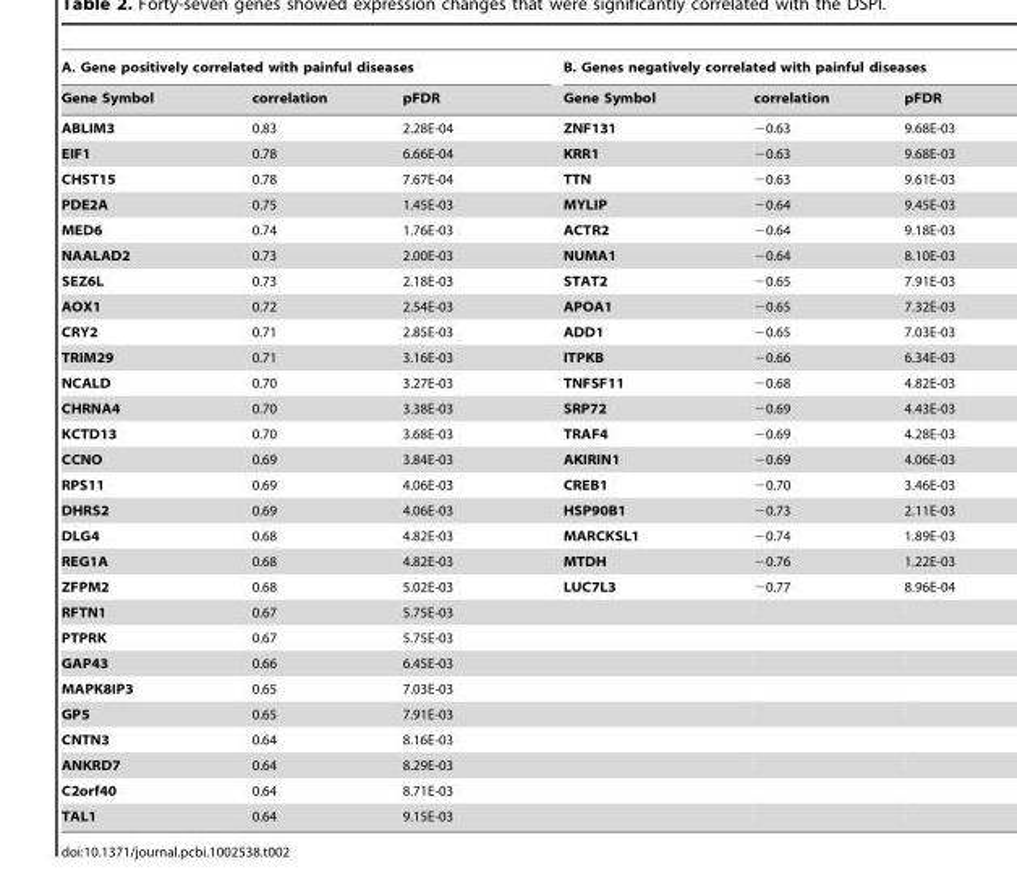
<table><thead><tr><td colspan="3">A. Gene positively correlated with painful diseases</td><td colspan="3">B. Genes negatively correlated with painful diseases</td></tr><tr><td>Gene Symbol</td><td>correlation</td><td>pFDR</td><td>Gene Symbol</td><td>correlation</td><td>pFDR</td></tr></thead><tbody><tr><td>ABLIM3</td><td>0.83</td><td>2.28E-04</td><td>ZNF131</td><td>−0.63</td><td>9.68E-03</td></tr><tr><td>EIF1</td><td>0.78</td><td>6.66E-04</td><td>KRR1</td><td>−0.63</td><td>9.68E-03</td></tr><tr><td>CHST15</td><td>0.78</td><td>7.67E-04</td><td>TTN</td><td>−0.63</td><td>9.61E-03</td></tr><tr><td>PDE2A</td><td>0.75</td><td>1.45E-03</td><td>MYLIP</td><td>−0.64</td><td>9.45E-03</td></tr><tr><td>MED6</td><td>0.74</td><td>1.76E-03</td><td>ACTR2</td><td>−0.64</td><td>9.18E-03</td></tr><tr><td>NAALAD2</td><td>0.73</td><td>2.00E-03</td><td>NUMA1</td><td>−0.64</td><td>8.10E-03</td></tr><tr><td>SEZ6L</td><td>0.73</td><td>2.18E-03</td><td>STAT2</td><td>−0.65</td><td>7.91E-03</td></tr><tr><td>AOX1</td><td>0.72</td><td>2.54E-03</td><td>APOA1</td><td>−0.65</td><td>7.32E-03</td></tr><tr><td>CRY2</td><td>0.71</td><td>2.85E-03</td><td>ADD1</td><td>−0.65</td><td>7.03E-03</td></tr><tr><td>TRIM29</td><td>0.71</td><td>3.16E-03</td><td>ITPKB</td><td>−0.66</td><td>6.34E-03</td></tr><tr><td>NCALD</td><td>0.70</td><td>3.27E-03</td><td>TNFSF11</td><td>−0.68</td><td>4.82E-03</td></tr><tr><td>CHRNA4</td><td>0.70</td><td>3.38E-03</td><td>SRP72</td><td>−0.69</td><td>4.43E-03</td></tr><tr><td>KCTD13</td><td>0.70</td><td>3.68E-03</td><td>TRAF4</td><td>−0.69</td><td>4.28E-03</td></tr><tr><td>CCNO</td><td>0.69</td><td>3.84E-03</td><td>AKIRIN1</td><td>−0.69</td><td>4.06E-03</td></tr><tr><td>RPS11</td><td>0.69</td><td>4.06E-03</td><td>CREB1</td><td>−0.70</td><td>3.46E-03</td></tr><tr><td>DHRS2</td><td>0.69</td><td>4.06E-03</td><td>HSP90B1</td><td>−0.73</td><td>2.11E-03</td></tr><tr><td>DLG4</td><td>0.68</td><td>4.82E-03</td><td>MARCKSL1</td><td>−0.74</td><td>1.89E-03</td></tr><tr><td>REG1A</td><td>0.68</td><td>4.82E-03</td><td>MTDH</td><td>−0.76</td><td>1.22E-03</td></tr><tr><td>ZFPM2</td><td>0.68</td><td>5.02E-03</td><td>LUC7L3</td><td>−0.77</td><td>8.96E-04</td></tr><tr><td>RFTN1</td><td>0.67</td><td>5.75E-03</td><td></td><td></td><td></td></tr><tr><td>PTPRK</td><td>0.67</td><td>5.75E-03</td><td></td><td></td><td></td></tr><tr><td>GAP43</td><td>0.66</td><td>6.45E-03</td><td></td><td></td><td></td></tr><tr><td>MAPK8IP3</td><td>0.65</td><td>7.03E-03</td><td></td><td></td><td></td></tr><tr><td>GP5</td><td>0.65</td><td>7.91E-03</td><td></td><td></td><td></td></tr><tr><td>CNTN3</td><td>0.64</td><td>8.16E-03</td><td></td><td></td><td></td></tr><tr><td>ANKRD7</td><td>0.64</td><td>8.29E-03</td><td></td><td></td><td></td></tr><tr><td>C2orf40</td><td>0.64</td><td>8.71E-03</td><td></td><td></td><td></td></tr><tr><td>TAL1</td><td>0.64</td><td>9.15E-03</td><td></td><td></td><td></td></tr></tbody></table>